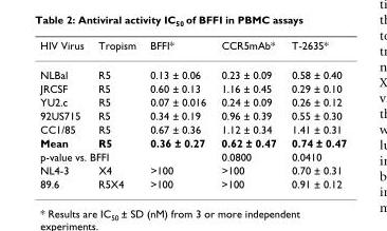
<table><thead><tr><td>HIV Virus</td><td>Tropism</td><td>BFFI*</td><td>CCR5mAb*</td><td>T-2635*</td></tr></thead><tbody><tr><td>NLBal</td><td>R5</td><td>0.13 ± 0.06</td><td>0.23 ± 0.09</td><td>0.58 ± 0.40</td></tr><tr><td>JRCSF</td><td>R5</td><td>0.60 ± 0.13</td><td>1.16 ± 0.45</td><td>0.29 ± 0.10</td></tr><tr><td>YU2.c</td><td>R5</td><td>0.07 ± 0.016</td><td>0.24 ± 0.09</td><td>0.26 ± 0.12</td></tr><tr><td>92US715</td><td>R5</td><td>0.34 ± 0.19</td><td>0.96 ± 0.39</td><td>0.55 ± 0.30</td></tr><tr><td>CC1/85</td><td>R5</td><td>0.67 ± 0.36</td><td>1.12 ± 0.34</td><td>1.41 ± 0.31</td></tr><tr><td>Mean</td><td>R5</td><td>0.36 ± 0.27</td><td>0.62 ± 0.47</td><td>0.74 ± 0.47</td></tr><tr><td colspan="2">p-value vs. BFFI</td><td></td><td>0.0800</td><td>0.0410</td></tr><tr><td>NL4-3</td><td>X4</td><td>&gt;100</td><td>&gt;100</td><td>0.70 ± 0.31</td></tr><tr><td>89.6</td><td>R5X4</td><td>&gt;100</td><td>&gt;100</td><td>0.91 ± 0.12</td></tr></tbody></table>